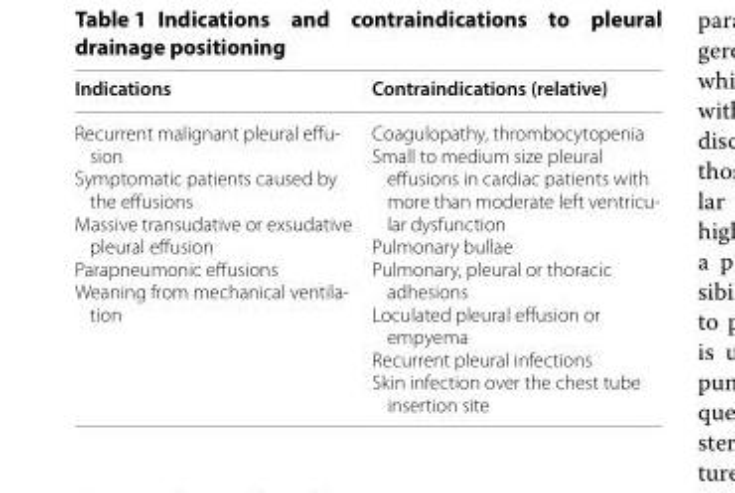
<table><thead><tr><td>Indications</td><td>Contraindications (relative)</td></tr></thead><tbody><tr><td>Recurrent malignant pleural effu- sion Symptomatic patients caused by the effusions Massive transudative or exsudative pleural effusion Parapneumonic effusions Weaning from mechanical ventila- tion</td><td>Coagulopathy, thrombocytopenia Small to medium size pleural effusions in cardiac patients with more than moderate left ventricu- lar dysfunction Pulmonary bullae Pulmonary, pleural or thoracic adhesions Loculated pleural effusion or empyema Recurrent pleural infections Skin infection over the chest tube insertion site</td></tr></tbody></table>